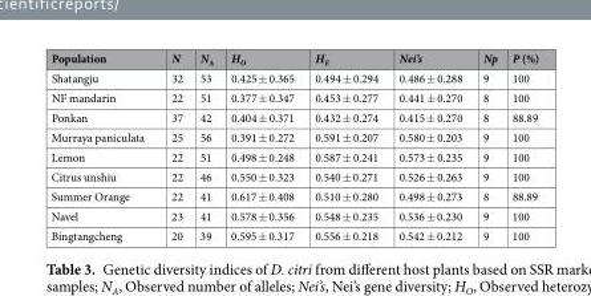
<table><thead><tr><td>Population</td><td>N</td><td>N<sub>A</sub></td><td>H<sub>O</sub></td><td>H<sub>E</sub></td><td>Nei’s</td><td>Np</td><td>P (%)</td></tr></thead><tbody><tr><td>Shatangju</td><td>32</td><td>53</td><td>0.425 ± 0.365</td><td>0.494 ± 0.294</td><td>0.486 ± 0.288</td><td>9</td><td>100</td></tr><tr><td>NF mandarin</td><td>22</td><td>51</td><td>0.377 ± 0.347</td><td>0.453 ± 0.277</td><td>0.441 ± 0.270</td><td>8</td><td>100</td></tr><tr><td>Ponkan</td><td>37</td><td>42</td><td>0.404 ± 0.371</td><td>0.432 ± 0.274</td><td>0.415 ± 0.270</td><td>8</td><td>88.89</td></tr><tr><td>Murraya paniculata</td><td>25</td><td>56</td><td>0.391 ± 0.272</td><td>0.591 ± 0.207</td><td>0.580 ± 0.203</td><td>9</td><td>100</td></tr><tr><td>Lemon</td><td>22</td><td>51</td><td>0.498 ± 0.248</td><td>0.587 ± 0.241</td><td>0.573 ± 0.235</td><td>9</td><td>100</td></tr><tr><td>Citrus unshiu</td><td>22</td><td>46</td><td>0.550 ± 0.323</td><td>0.540 ± 0.271</td><td>0.526 ± 0.263</td><td>9</td><td>100</td></tr><tr><td>Summer Orange</td><td>22</td><td>41</td><td>0.617 ± 0.408</td><td>0.510 ± 0.280</td><td>0.498 ± 0.273</td><td>8</td><td>88.89</td></tr><tr><td>Navel</td><td>23</td><td>41</td><td>0.578 ± 0.356</td><td>0.548 ± 0.235</td><td>0.536 ± 0.230</td><td>9</td><td>100</td></tr><tr><td>Bingtangcheng</td><td>20</td><td>39</td><td>0.595 ± 0.317</td><td>0.556 ± 0.218</td><td>0.542 ± 0.212</td><td>9</td><td>100</td></tr></tbody></table>